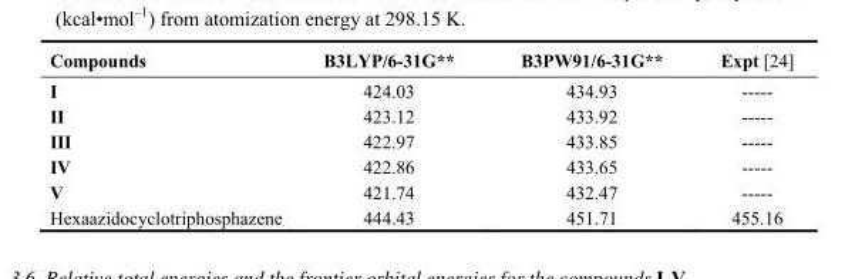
<table><thead><tr><td>Compounds</td><td>B3LYP/6-31G**</td><td>B3PW91/6-31G**</td><td>Expt [24]</td></tr></thead><tbody><tr><td>I</td><td>424.03</td><td>434.93</td><td>-----</td></tr><tr><td>II</td><td>423.12</td><td>433.92</td><td>-----</td></tr><tr><td>III</td><td>422.97</td><td>433.85</td><td>-----</td></tr><tr><td>IV</td><td>422.86</td><td>433.65</td><td>-----</td></tr><tr><td>V</td><td>421.74</td><td>432.47</td><td>-----</td></tr><tr><td>Hexaazidocyclotriphosphazene</td><td>444.43</td><td>451.71</td><td>455.16</td></tr></tbody></table>